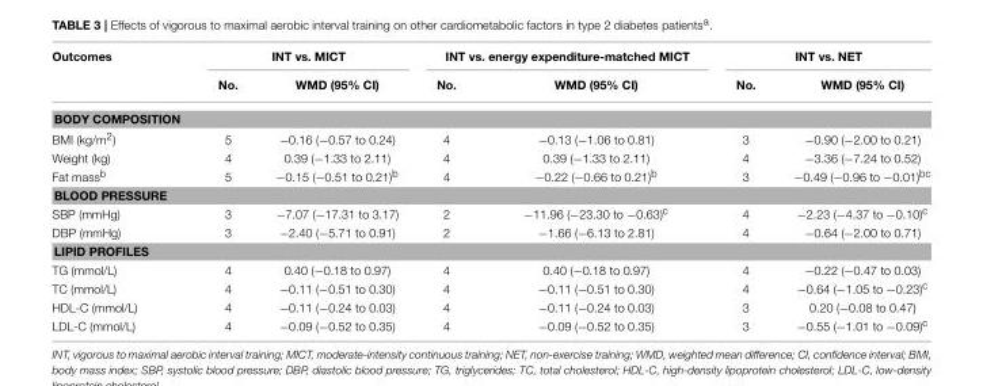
<table><thead><tr><td rowspan="2">Outcomes</td><td colspan="2">INT vs. MICT</td><td colspan="2">INT vs. energy expenditure-matched MICT</td><td colspan="2">INT vs. NET</td></tr><tr><td>No.</td><td>WMD (95% CI)</td><td>No.</td><td>WMD (95% CI)</td><td>No.</td><td>WMD (95% CI)</td></tr></thead><tbody><tr><td colspan="7">BODY COMPOSITION</td></tr><tr><td>BMI (kg/m<sup>2</sup>)</td><td>5</td><td>−0.16 (−0.57 to 0.24)</td><td>4</td><td>−0.13 (−1.06 to 0.81)</td><td>3</td><td>−0.90 (−2.00 to 0.21)</td></tr><tr><td>Weight (kg)</td><td>4</td><td>0.39 (−1.33 to 2.11)</td><td>4</td><td>0.39 (−1.33 to 2.11)</td><td>4</td><td>−3.36 (−7.24 to 0.52)</td></tr><tr><td>Fat mass<sup>b</sup></td><td>5</td><td>−0.15 (−0.51 to 0.21)<sup>b</sup></td><td>4</td><td>−0.22 (−0.66 to 0.21)<sup>b</sup></td><td>3</td><td>−0.49 (−0.96 to −0.01)<sup>bc</sup></td></tr><tr><td colspan="7">BLOOD PRESSURE</td></tr><tr><td>SBP (mmHg)</td><td>3</td><td>−7.07 (−17.31 to 3.17)</td><td>2</td><td>−11.96 (−23.30 to −0.63)<sup>c</sup></td><td>4</td><td>−2.23 (−4.37 to −0.10)<sup>c</sup></td></tr><tr><td>DBP (mmHg)</td><td>3</td><td>−2.40 (−5.71 to 0.91)</td><td>2</td><td>−1.66 (−6.13 to 2.81)</td><td>4</td><td>−0.64 (−2.00 to 0.71)</td></tr><tr><td colspan="7">LIPID PROFILES</td></tr><tr><td>TG (mmol/L)</td><td>4</td><td>0.40 (−0.18 to 0.97)</td><td>4</td><td>0.40 (−0.18 to 0.97)</td><td>4</td><td>−0.22 (−0.47 to 0.03)</td></tr><tr><td>TC (mmol/L)</td><td>4</td><td>−0.11 (−0.51 to 0.30)</td><td>4</td><td>−0.11 (−0.51 to 0.30)</td><td>4</td><td>−0.64 (−1.05 to −0.23)<sup>c</sup></td></tr><tr><td>HDL-C (mmol/L)</td><td>4</td><td>−0.11 (−0.24 to 0.03)</td><td>4</td><td>−0.11 (−0.24 to 0.03)</td><td>3</td><td>0.20 (−0.08 to 0.47)</td></tr><tr><td>LDL-C (mmol/L)</td><td>4</td><td>−0.09 (−0.52 to 0.35)</td><td>4</td><td>−0.09 (−0.52 to 0.35)</td><td>3</td><td>−0.55 (−1.01 to −0.09)<sup>c</sup></td></tr></tbody></table>